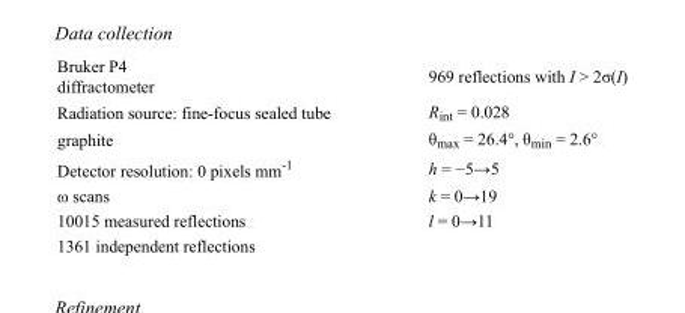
<table><tbody><tr><td>Bruker P4 diffractometer</td><td>969 reflections with I &gt; 2σ(I)</td></tr><tr><td>Radiation source: fine-focus sealed tube</td><td>R<sub>int</sub> = 0.028</td></tr><tr><td>graphite</td><td>θ<sub>max</sub> = 26.4°, θ<sub>min</sub> = 2.6°</td></tr><tr><td>Detector resolution: 0 pixels mm<sup>-1</sup></td><td>h = −5→5</td></tr><tr><td>ω scans</td><td>k = 0→19</td></tr><tr><td>10015 measured reflections</td><td>l = 0→11</td></tr><tr><td>1361 independent reflections</td><td></td></tr></tbody></table>